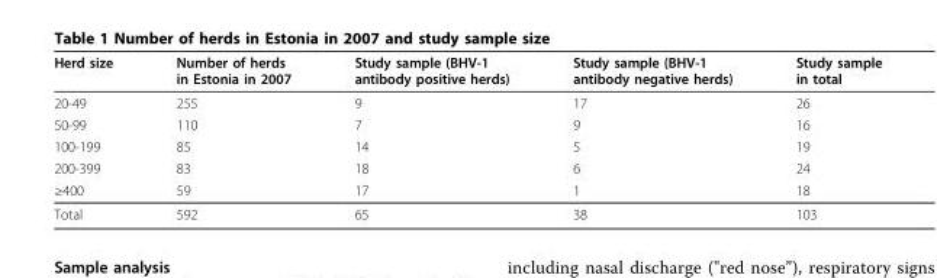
<table><thead><tr><td>Herd size</td><td>Number of herds in Estonia in 2007</td><td>Study sample (BHV-1 antibody positive herds)</td><td>Study sample (BHV-1 antibody negative herds)</td><td>Study sample in total</td></tr></thead><tbody><tr><td>20-49</td><td>255</td><td>9</td><td>17</td><td>26</td></tr><tr><td>50-99</td><td>110</td><td>7</td><td>9</td><td>16</td></tr><tr><td>100-199</td><td>85</td><td>14</td><td>5</td><td>19</td></tr><tr><td>200-399</td><td>83</td><td>18</td><td>6</td><td>24</td></tr><tr><td>≥400</td><td>59</td><td>17</td><td>1</td><td>18</td></tr><tr><td>Total</td><td>592</td><td>65</td><td>38</td><td>103</td></tr></tbody></table>